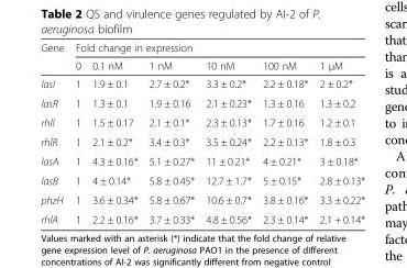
<table><thead><tr><td rowspan="2">Gene</td><td colspan="6">Fold change in expression</td></tr><tr><td>0</td><td>0.1 nM</td><td>1 nM</td><td>10 nM</td><td>100 nM</td><td>1 μM</td></tr></thead><tbody><tr><td>lasI</td><td>1</td><td>1.9 ± 0.1</td><td>2.7 ± 0.2*</td><td>3.3 ± 0.2*</td><td>2.2 ± 0.18*</td><td>2 ± 0.2*</td></tr><tr><td>lasR</td><td>1</td><td>1.3 ± 0.1</td><td>1.9 ± 0.16</td><td>2.1 ± 0.23*</td><td>1.3 ± 0.16</td><td>1.3 ± 0.2</td></tr><tr><td>rhlI</td><td>1</td><td>1.5 ± 0.17</td><td>2.1 ± 0.1*</td><td>2.3 ± 0.13*</td><td>1.7 ± 0.16</td><td>1.2 ± 0.1</td></tr><tr><td>rhlR</td><td>1</td><td>2.1 ± 0.2*</td><td>3.4 ± 0.3*</td><td>3.5 ± 0.24*</td><td>2.2 ± 0.13*</td><td>1.8 ± 0.3</td></tr><tr><td>lasA</td><td>1</td><td>4.3 ± 0.16*</td><td>5.1 ± 0.27*</td><td>11 ± 0.21*</td><td>4 ± 0.21*</td><td>3 ± 0.18*</td></tr><tr><td>lasB</td><td>1</td><td>4 ± 0.14*</td><td>5.8 ± 0.45*</td><td>12.7 ± 1.7*</td><td>5 ± 0.15*</td><td>2.8 ± 0.13*</td></tr><tr><td>phzH</td><td>1</td><td>3.6 ± 0.34*</td><td>5.8 ± 0.67*</td><td>10.6 ± 0.7*</td><td>3.8 ± 0.16*</td><td>3.3 ± 0.22*</td></tr><tr><td>rhlA</td><td>1</td><td>2.2 ± 0.16*</td><td>3.7 ± 0.33*</td><td>4.8 ± 0.56*</td><td>2.3 ± 0.14*</td><td>2.1 + 0.14*</td></tr></tbody></table>